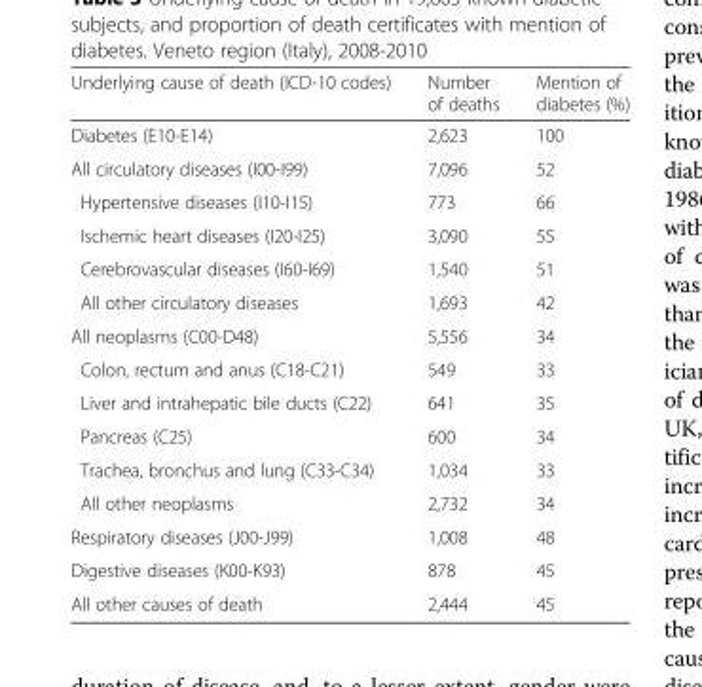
<table><thead><tr><td>Underlying cause of death (ICD-10 codes)</td><td>Number of deaths</td><td>Mention of diabetes (%)</td></tr></thead><tbody><tr><td>Diabetes (E10-E14)</td><td>2,623</td><td>100</td></tr><tr><td>All circulatory diseases (I00-I99)</td><td>7,096</td><td>52</td></tr><tr><td>Hypertensive diseases (I10-I15)</td><td>773</td><td>66</td></tr><tr><td>Ischemic heart diseases (I20-I25)</td><td>3,090</td><td>55</td></tr><tr><td>Cerebrovascular diseases (I60-I69)</td><td>1,540</td><td>51</td></tr><tr><td>All other circulatory diseases</td><td>1,693</td><td>42</td></tr><tr><td>All neoplasms (C00-D48)</td><td>5,556</td><td>34</td></tr><tr><td>Colon, rectum and anus (C18-C21)</td><td>549</td><td>33</td></tr><tr><td>Liver and intrahepatic bile ducts (C22)</td><td>641</td><td>35</td></tr><tr><td>Pancreas (C25)</td><td>600</td><td>34</td></tr><tr><td>Trachea, bronchus and lung (C33-C34)</td><td>1,034</td><td>33</td></tr><tr><td>All other neoplasms</td><td>2,732</td><td>34</td></tr><tr><td>Respiratory diseases (J00-J99)</td><td>1,008</td><td>48</td></tr><tr><td>Digestive diseases (K00-K93)</td><td>878</td><td>45</td></tr><tr><td>All other causes of death</td><td>2,444</td><td>45</td></tr></tbody></table>